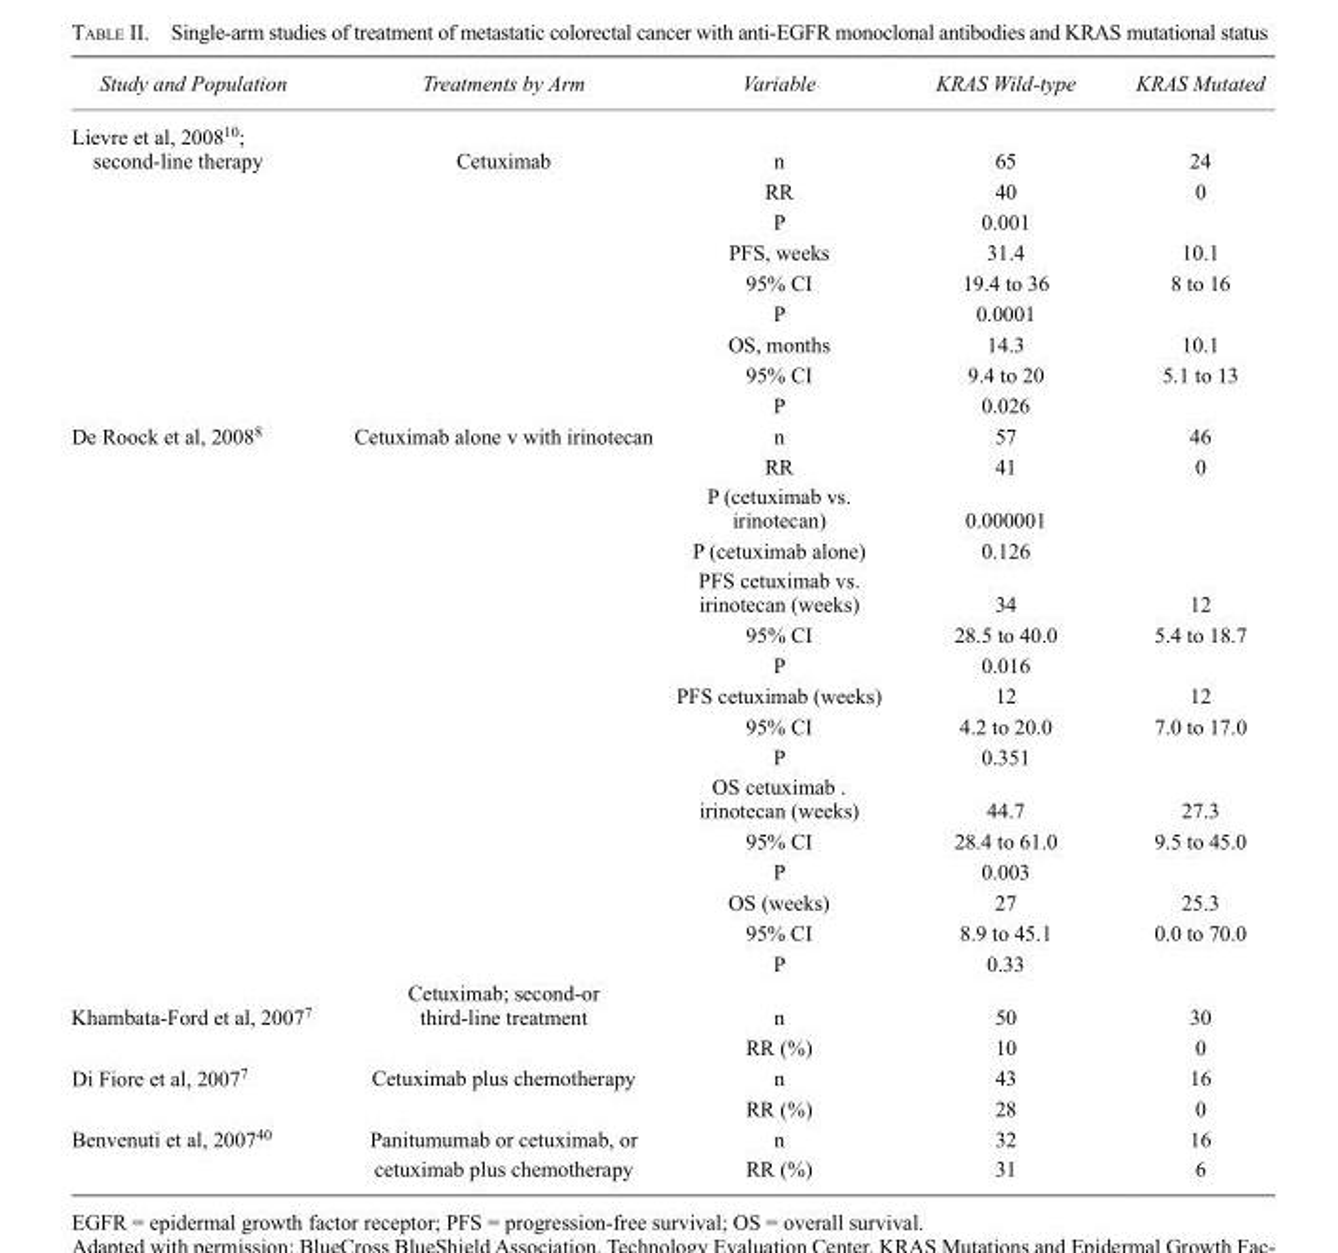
<table><thead><tr><td>Study and Population</td><td>Treatments by Arm</td><td>Variable</td><td>KRAS Wild-type</td><td>KRAS Mutated</td></tr></thead><tbody><tr><td rowspan="9">Lievre et al, 2008<sup>10</sup>; second-line therapy</td><td>Cetuximab</td><td>n</td><td>65</td><td>24</td></tr><tr><td></td><td>RR</td><td>40</td><td>0</td></tr><tr><td></td><td>P</td><td>0.001</td><td></td></tr><tr><td></td><td>PFS, weeks</td><td>31.4</td><td>10.1</td></tr><tr><td></td><td>95% CI</td><td>19.4 to 36</td><td>8 to 16</td></tr><tr><td></td><td>P</td><td>0.0001</td><td></td></tr><tr><td></td><td>OS, months</td><td>14.3</td><td>10.1</td></tr><tr><td></td><td>95% CI</td><td>9.4 to 20</td><td>5.1 to 13</td></tr><tr><td></td><td>P</td><td>0.026</td><td></td></tr><tr><td rowspan="16">De Roock et al, 2008<sup>8</sup></td><td>Cetuximab alone v with irinotecan</td><td>n</td><td>57</td><td>46</td></tr><tr><td></td><td>RR</td><td>41</td><td>0</td></tr><tr><td></td><td>P (cetuximab vs. irinotecan)</td><td>0.000001</td><td></td></tr><tr><td></td><td>P (cetuximab alone)</td><td>0.126</td><td></td></tr><tr><td></td><td>PFS cetuximab vs. irinotecan (weeks)</td><td>34</td><td>12</td></tr><tr><td></td><td>95% CI</td><td>28.5 to 40.0</td><td>5.4 to 18.7</td></tr><tr><td></td><td>P</td><td>0.016</td><td></td></tr><tr><td></td><td>PFS cetuximab (weeks)</td><td>12</td><td>12</td></tr><tr><td></td><td>95% CI</td><td>4.2 to 20.0</td><td>7.0 to 17.0</td></tr><tr><td></td><td>P</td><td>0.351</td><td></td></tr><tr><td></td><td>OS cetuximab . irinotecan (weeks)</td><td>44.7</td><td>27.3</td></tr><tr><td></td><td>95% CI</td><td>28.4 to 61.0</td><td>9.5 to 45.0</td></tr><tr><td></td><td>P</td><td>0.003</td><td></td></tr><tr><td></td><td>OS (weeks)</td><td>27</td><td>25.3</td></tr><tr><td></td><td>95% CI</td><td>8.9 to 45.1</td><td>0.0 to 70.0</td></tr><tr><td></td><td>P</td><td>0.33</td><td></td></tr><tr><td rowspan="2">Khambata-Ford et al, 2007<sup>7</sup></td><td>Cetuximab; second-or third-line treatment</td><td>n</td><td>50</td><td>30</td></tr><tr><td></td><td>RR (%)</td><td>10</td><td>0</td></tr><tr><td rowspan="2">Di Fiore et al, 20077</td><td>Cetuximab plus chemotherapy</td><td>n</td><td>43</td><td>16</td></tr><tr><td></td><td>RR (%)</td><td>28</td><td>0</td></tr><tr><td rowspan="2">Benvenuti et al, 200740</td><td rowspan="2">Panitumumab or cetuximab, or cetuximab plus chemotherapy</td><td>n</td><td>32</td><td>16</td></tr><tr><td>RR (%)</td><td>31</td><td>6</td></tr></tbody></table>